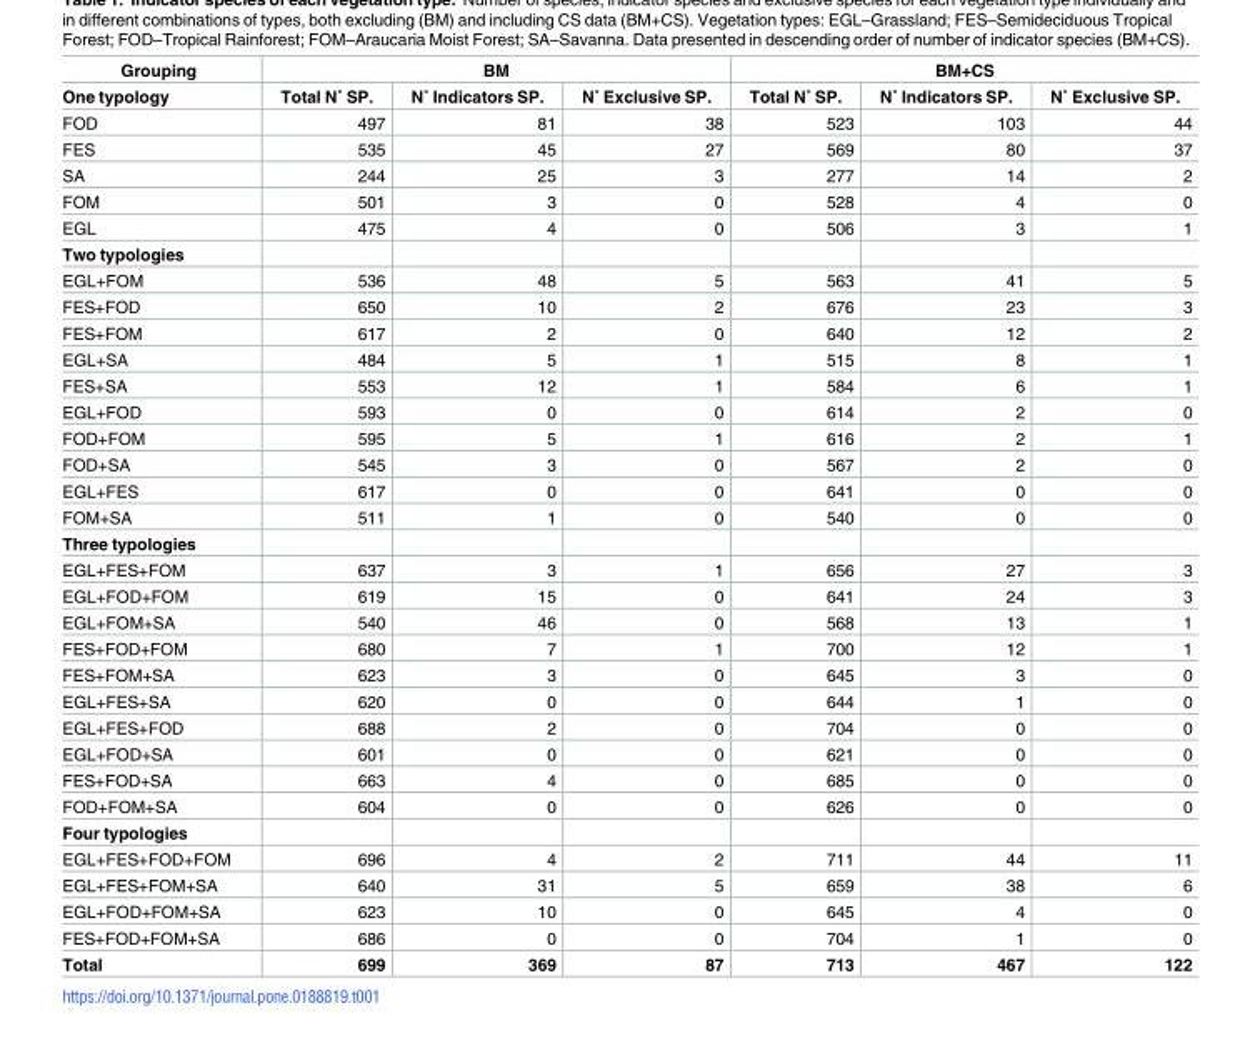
<table><thead><tr><td rowspan="2">Grouping One typology</td><td colspan="3">BM</td><td colspan="3">BM+CS</td></tr><tr><td>Total N˚ SP.</td><td>N˚ Indicators SP.</td><td>N˚ Exclusive SP.</td><td>Total N˚ SP.</td><td>N˚ Indicators SP.</td><td>N˚ Exclusive SP.</td></tr></thead><tbody><tr><td>FOD</td><td>497</td><td>81</td><td>38</td><td>523</td><td>103</td><td>44</td></tr><tr><td>FES</td><td>535</td><td>45</td><td>27</td><td>569</td><td>80</td><td>37</td></tr><tr><td>SA</td><td>244</td><td>25</td><td>3</td><td>277</td><td>14</td><td>2</td></tr><tr><td>FOM</td><td>501</td><td>3</td><td>0</td><td>528</td><td>4</td><td>0</td></tr><tr><td>EGL</td><td>475</td><td>4</td><td>0</td><td>506</td><td>3</td><td>1</td></tr><tr><td colspan="7">Two typologies</td></tr><tr><td>EGL+FOM</td><td>536</td><td>48</td><td>5</td><td>563</td><td>41</td><td>5</td></tr><tr><td>FES+FOD</td><td>650</td><td>10</td><td>2</td><td>676</td><td>23</td><td>3</td></tr><tr><td>FES+FOM</td><td>617</td><td>2</td><td>0</td><td>640</td><td>12</td><td>2</td></tr><tr><td>EGL+SA</td><td>484</td><td>5</td><td>1</td><td>515</td><td>8</td><td>1</td></tr><tr><td>FES+SA</td><td>553</td><td>12</td><td>1</td><td>584</td><td>6</td><td>1</td></tr><tr><td>EGL+FOD</td><td>593</td><td>0</td><td>0</td><td>614</td><td>2</td><td>0</td></tr><tr><td>FOD+FOM</td><td>595</td><td>5</td><td>1</td><td>616</td><td>2</td><td>1</td></tr><tr><td>FOD+SA</td><td>545</td><td>3</td><td>0</td><td>567</td><td>2</td><td>0</td></tr><tr><td>EGL+FES</td><td>617</td><td>0</td><td>0</td><td>641</td><td>0</td><td>0</td></tr><tr><td>FOM+SA</td><td>511</td><td>1</td><td>0</td><td>540</td><td>0</td><td>0</td></tr><tr><td colspan="7">Three typologies</td></tr><tr><td>EGL+FES+FOM</td><td>637</td><td>3</td><td>1</td><td>656</td><td>27</td><td>3</td></tr><tr><td>EGL+FOD+FOM</td><td>619</td><td>15</td><td>0</td><td>641</td><td>24</td><td>3</td></tr><tr><td>EGL+FOM+SA</td><td>540</td><td>46</td><td>0</td><td>568</td><td>13</td><td>1</td></tr><tr><td>FES+FOD+FOM</td><td>680</td><td>7</td><td>1</td><td>700</td><td>12</td><td>1</td></tr><tr><td>FES+FOM+SA</td><td>623</td><td>3</td><td>0</td><td>645</td><td>3</td><td>0</td></tr><tr><td>EGL+FES+SA</td><td>620</td><td>0</td><td>0</td><td>644</td><td>1</td><td>0</td></tr><tr><td>EGL+FES+FOD</td><td>688</td><td>2</td><td>0</td><td>704</td><td>0</td><td>0</td></tr><tr><td>EGL+FOD+SA</td><td>601</td><td>0</td><td>0</td><td>621</td><td>0</td><td>0</td></tr><tr><td>FES+FOD+SA</td><td>663</td><td>4</td><td>0</td><td>685</td><td>0</td><td>0</td></tr><tr><td>FOD+FOM+SA</td><td>604</td><td>0</td><td>0</td><td>626</td><td>0</td><td>0</td></tr><tr><td colspan="7">Four typologies</td></tr><tr><td>EGL+FES+FOD+FOM</td><td>696</td><td>4</td><td>2</td><td>711</td><td>44</td><td>11</td></tr><tr><td>EGL+FES+FOM+SA</td><td>640</td><td>31</td><td>5</td><td>659</td><td>38</td><td>6</td></tr><tr><td>EGL+FOD+FOM+SA</td><td>623</td><td>10</td><td>0</td><td>645</td><td>4</td><td>0</td></tr><tr><td>FES+FOD+FOM+SA</td><td>686</td><td>0</td><td>0</td><td>704</td><td>1</td><td>0</td></tr><tr><td>Total</td><td>699</td><td>369</td><td>87</td><td>713</td><td>467</td><td>122</td></tr></tbody></table>